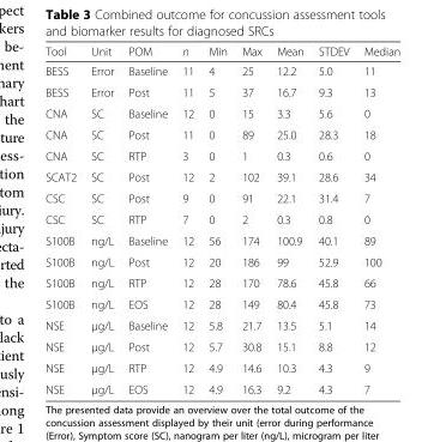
<table><thead><tr><td>Tool</td><td>Unit</td><td>POM</td><td>n</td><td>Min</td><td>Max</td><td>Mean</td><td>STDEV</td><td>Median</td></tr></thead><tbody><tr><td>BESS</td><td>Error</td><td>Baseline</td><td>11</td><td>4</td><td>25</td><td>12.2</td><td>5.0</td><td>11</td></tr><tr><td>BESS</td><td>Error</td><td>Post</td><td>11</td><td>5</td><td>37</td><td>16.7</td><td>9.3</td><td>13</td></tr><tr><td>CNA</td><td>SC</td><td>Baseline</td><td>12</td><td>0</td><td>15</td><td>3.3</td><td>5.6</td><td>0</td></tr><tr><td>CNA</td><td>SC</td><td>Post</td><td>11</td><td>0</td><td>89</td><td>25.0</td><td>28.3</td><td>18</td></tr><tr><td>CNA</td><td>SC</td><td>RTP</td><td>3</td><td>0</td><td>1</td><td>0.3</td><td>0.6</td><td>0</td></tr><tr><td>SCAT2</td><td>SC</td><td>Post</td><td>12</td><td>2</td><td>102</td><td>39.1</td><td>28.6</td><td>34</td></tr><tr><td>CSC</td><td>SC</td><td>Post</td><td>9</td><td>0</td><td>91</td><td>22.1</td><td>31.4</td><td>7</td></tr><tr><td>CSC</td><td>SC</td><td>RTP</td><td>7</td><td>0</td><td>2</td><td>0.3</td><td>0.8</td><td>0</td></tr><tr><td>S100B</td><td>ng/L</td><td>Baseline</td><td>12</td><td>56</td><td>174</td><td>100.9</td><td>40.1</td><td>89</td></tr><tr><td>S100B</td><td>ng/L</td><td>Post</td><td>12</td><td>20</td><td>186</td><td>99</td><td>52.9</td><td>100</td></tr><tr><td>S100B</td><td>ng/L</td><td>RTP</td><td>12</td><td>28</td><td>170</td><td>78.6</td><td>45.8</td><td>66</td></tr><tr><td>S100B</td><td>ng/L</td><td>EOS</td><td>12</td><td>28</td><td>149</td><td>80.4</td><td>45.8</td><td>73</td></tr><tr><td>NSE</td><td>μg/L</td><td>Baseline</td><td>12</td><td>5.8</td><td>21.7</td><td>13.5</td><td>5.1</td><td>14</td></tr><tr><td>NSE</td><td>μg/L</td><td>Post</td><td>12</td><td>5.7</td><td>30.8</td><td>15.1</td><td>8.8</td><td>12</td></tr><tr><td>NSE</td><td>μg/L</td><td>RTP</td><td>12</td><td>4.9</td><td>14.6</td><td>10.3</td><td>4.3</td><td>9</td></tr><tr><td>NSE</td><td>μg/L</td><td>EOS</td><td>12</td><td>4.9</td><td>16.3</td><td>9.2</td><td>4.3</td><td>7</td></tr></tbody></table>